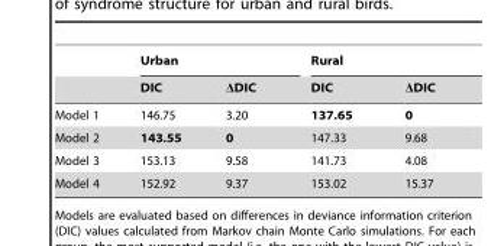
<table><thead><tr><td rowspan="2"></td><td colspan="2">Urban</td><td colspan="2">Rural</td></tr><tr><td>DIC</td><td>ΔDIC</td><td>DIC</td><td>ΔDIC</td></tr></thead><tbody><tr><td>Model 1</td><td>146.75</td><td>3.20</td><td>137.65</td><td>0</td></tr><tr><td>Model 2</td><td>143.55</td><td>0</td><td>147.33</td><td>9.68</td></tr><tr><td>Model 3</td><td>153.13</td><td>9.58</td><td>141.73</td><td>4.08</td></tr><tr><td>Model 4</td><td>152.92</td><td>9.37</td><td>153.02</td><td>15.37</td></tr></tbody></table>